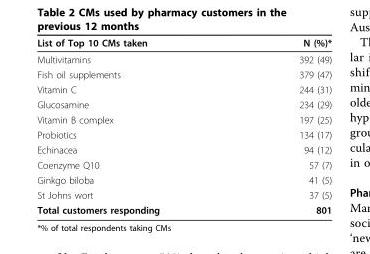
<table><thead><tr><td>List of Top 10 CMs taken</td><td>N (%)*</td></tr></thead><tbody><tr><td>Multivitamins</td><td>392 (49)</td></tr><tr><td>Fish oil supplements</td><td>379 (47)</td></tr><tr><td>Vitamin C</td><td>244 (31)</td></tr><tr><td>Glucosamine</td><td>234 (29)</td></tr><tr><td>Vitamin B complex</td><td>197 (25)</td></tr><tr><td>Probiotics</td><td>134 (17)</td></tr><tr><td>Echinacea</td><td>94 (12)</td></tr><tr><td>Coenzyme Q10</td><td>57 (7)</td></tr><tr><td>Ginkgo biloba</td><td>41 (5)</td></tr><tr><td>St Johns wort</td><td>37 (5)</td></tr><tr><td>Total customers responding</td><td>801</td></tr></tbody></table>